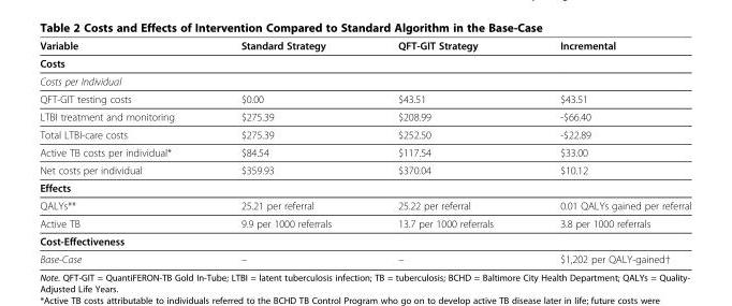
<table><thead><tr><td>Variable</td><td>Standard Strategy</td><td>QFT-GIT Strategy</td><td>Incremental</td></tr></thead><tbody><tr><td colspan="4">Costs</td></tr><tr><td colspan="4">Costs per Individual</td></tr><tr><td>QFT-GIT testing costs</td><td>$0.00</td><td>$43.51</td><td>$43.51</td></tr><tr><td>LTBI treatment and monitoring</td><td>$275.39</td><td>$208.99</td><td>-$66.40</td></tr><tr><td>Total LTBI-care costs</td><td>$275.39</td><td>$252.50</td><td>-$22.89</td></tr><tr><td>Active TB costs per individual*</td><td>$84.54</td><td>$117.54</td><td>$33.00</td></tr><tr><td>Net costs per individual</td><td>$359.93</td><td>$370.04</td><td>$10.12</td></tr><tr><td colspan="4">Effects</td></tr><tr><td>QALYs**</td><td>25.21 per referral</td><td>25.22 per referral</td><td>0.01 QALYs gained per referral</td></tr><tr><td>Active TB</td><td>9.9 per 1000 referrals</td><td>13.7 per 1000 referrals</td><td>3.8 per 1000 referrals</td></tr><tr><td colspan="4">Cost-Effectiveness</td></tr><tr><td>Base-Case</td><td>–</td><td>–</td><td>$1,202 per QALY-gained†</td></tr></tbody></table>